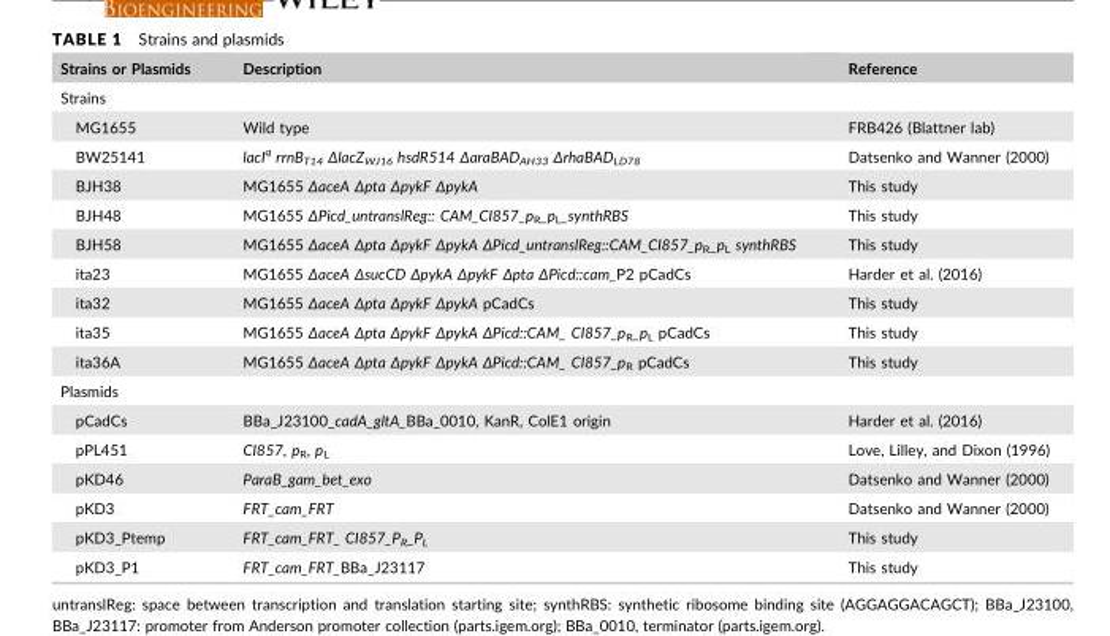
<table><thead><tr><td>Strains or Plasmids</td><td>Description</td><td>Reference</td></tr></thead><tbody><tr><td colspan="3">Strains</td></tr><tr><td>MG1655</td><td>Wild type</td><td>FRB426 (Blattner lab)</td></tr><tr><td>BW25141</td><td>lacI<sup>q</sup> rrnB<sub>T14</sub> ΔlacZ<sub>WJ16</sub> hsdR514 ΔaraBAD<sub>AH33</sub> ΔrhaBAD<sub>LD78</sub></td><td>Datsenko and Wanner (2000)</td></tr><tr><td>BJH38</td><td>MG1655 ΔaceA Δpta ΔpykF ΔpykA</td><td>This study</td></tr><tr><td>BJH48</td><td>MG1655 ΔPicd_untranslReg:: CAM_CI857_p<sub>R</sub>_p<sub>L</sub>_synthRBS</td><td>This study</td></tr><tr><td>BJH58</td><td>MG1655 ΔaceA Δpta ΔpykF ΔpykA ΔPicd_untranslReg::CAM_CI857_p<sub>R</sub>_p<sub>L</sub> synthRBS</td><td>This study</td></tr><tr><td>ita23</td><td>MG1655 ΔaceA ΔsucCD ΔpykA ΔpykF Δpta ΔPicd::cam_P2 pCadCs</td><td>Harder et al. (2016)</td></tr><tr><td>ita32</td><td>MG1655 ΔaceA Δpta ΔpykF ΔpykA pCadCs</td><td>This study</td></tr><tr><td>ita35</td><td>MG1655 ΔaceA Δpta ΔpykF ΔpykA ΔPicd::CAM_ CI857_p<sub>R</sub>_p<sub>L</sub> pCadCs</td><td>This study</td></tr><tr><td>ita36A</td><td>MG1655 ΔaceA Δpta ΔpykF ΔpykA ΔPicd::CAM_ CI857_p<sub>R</sub> pCadCs</td><td>This study</td></tr><tr><td colspan="3">Plasmids</td></tr><tr><td>pCadCs</td><td>BBa_J23100_cadA_gltA_BBa_0010, KanR, ColE1 origin</td><td>Harder et al. (2016)</td></tr><tr><td>pPL451</td><td>CI857, p<sub>R</sub>, p<sub>L</sub></td><td>Love, Lilley, and Dixon (1996)</td></tr><tr><td>pKD46</td><td>ParaB_gam_bet_exo</td><td>Datsenko and Wanner (2000)</td></tr><tr><td>pKD3</td><td>FRT_cam_FRT</td><td>Datsenko and Wanner (2000)</td></tr><tr><td>pKD3_Ptemp</td><td>FRT_cam_FRT_ CI857_PR_PL</td><td>This study</td></tr><tr><td>pKD3_P1</td><td>FRT_cam_FRT_BBa_J23117</td><td>This study</td></tr></tbody></table>